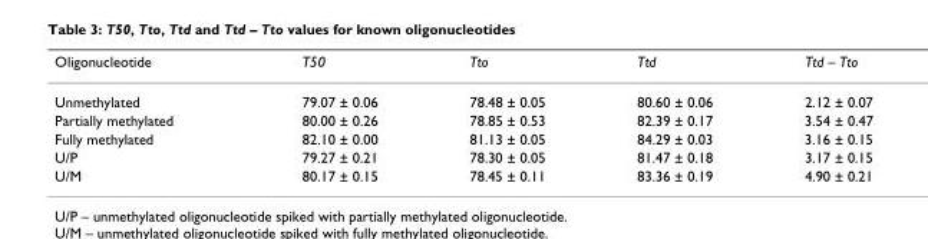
<table><thead><tr><td>Oligonucleotide</td><td>T50</td><td>Tto</td><td>Ttd</td><td>Ttd – Tto</td></tr></thead><tbody><tr><td>Unmethylated</td><td>79.07 ± 0.06</td><td>78.48 ± 0.05</td><td>80.60 ± 0.06</td><td>2.12 ± 0.07</td></tr><tr><td>Partially methylated</td><td>80.00 ± 0.26</td><td>78.85 ± 0.53</td><td>82.39 ± 0.17</td><td>3.54 ± 0.47</td></tr><tr><td>Fully methylated</td><td>82.10 ± 0.00</td><td>81.13 ± 0.05</td><td>84.29 ± 0.03</td><td>3.16 ± 0.15</td></tr><tr><td>U/P</td><td>79.27 ± 0.21</td><td>78.30 ± 0.05</td><td>81.47 ± 0.18</td><td>3.17 ± 0.15</td></tr><tr><td>U/M</td><td>80.17 ± 0.15</td><td>78.45 ± 0.11</td><td>83.36 ± 0.19</td><td>4.90 ± 0.21</td></tr></tbody></table>